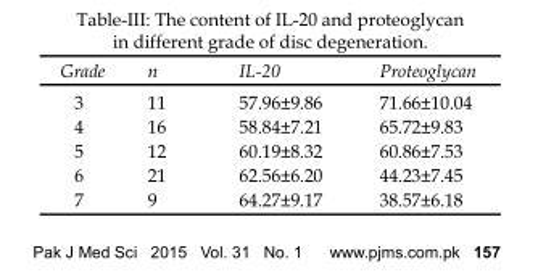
<table><thead><tr><td>Grade</td><td>n</td><td>IL-20</td><td>Proteoglycan</td></tr></thead><tbody><tr><td>3</td><td>11</td><td>57.96±9.86</td><td>71.66±10.04</td></tr><tr><td>4</td><td>16</td><td>58.84±7.21</td><td>65.72±9.83</td></tr><tr><td>5</td><td>12</td><td>60.19±8.32</td><td>60.86±7.53</td></tr><tr><td>6</td><td>21</td><td>62.56±6.20</td><td>44.23±7.45</td></tr><tr><td>7</td><td>9</td><td>64.27±9.17</td><td>38.57±6.18</td></tr></tbody></table>